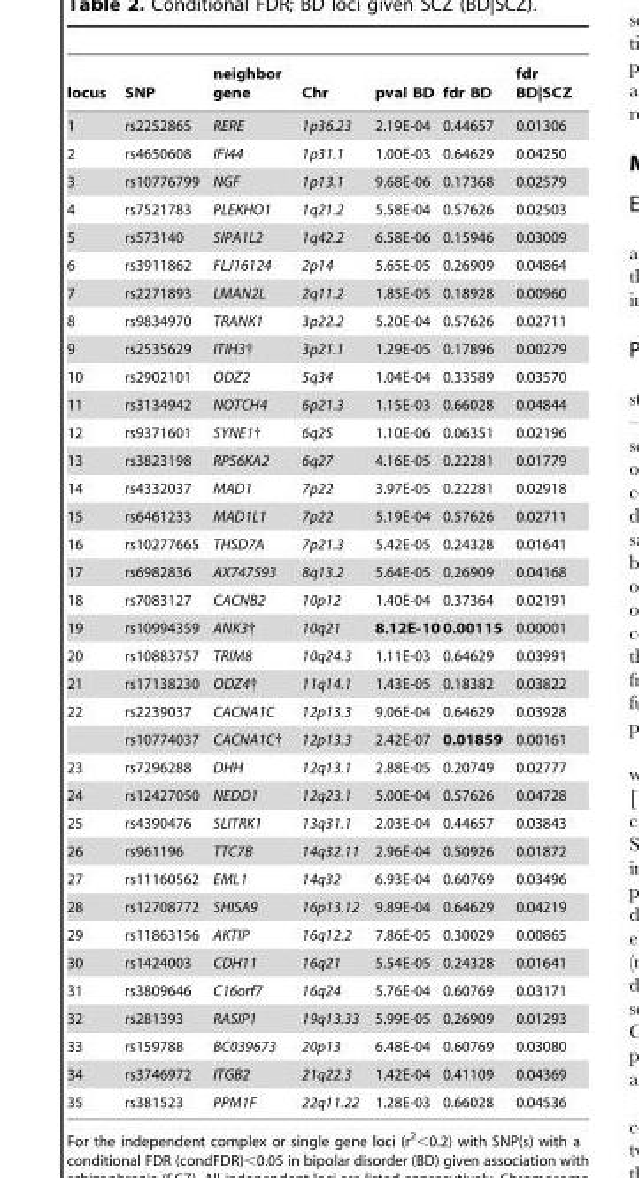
<table><thead><tr><td>locus</td><td>SNP</td><td>neighbor gene</td><td>Chr</td><td>pval BD</td><td>fdr BD</td><td>fdr BD|SCZ</td></tr></thead><tbody><tr><td>1</td><td>rs2252865</td><td>RERE</td><td>1p36.23</td><td>2.19E-04</td><td>0.44657</td><td>0.01306</td></tr><tr><td>2</td><td>rs4650608</td><td>IFI44</td><td>1p31.1</td><td>1.00E-03</td><td>0.64629</td><td>0.04250</td></tr><tr><td>3</td><td>rs10776799</td><td>NGF</td><td>1p13.1</td><td>9.68E-06</td><td>0.17368</td><td>0.02579</td></tr><tr><td>4</td><td>rs7521783</td><td>PLEKHO1</td><td>1q21.2</td><td>5.58E-04</td><td>0.57626</td><td>0.02503</td></tr><tr><td>5</td><td>rs573140</td><td>SIPA1L2</td><td>1q42.2</td><td>6.58E-06</td><td>0.15946</td><td>0.03009</td></tr><tr><td>6</td><td>rs3911862</td><td>FLJ16124</td><td>2p14</td><td>5.65E-05</td><td>0.26909</td><td>0.04864</td></tr><tr><td>7</td><td>rs2271893</td><td>LMAN2L</td><td>2q11.2</td><td>1.85E-05</td><td>0.18928</td><td>0.00960</td></tr><tr><td>8</td><td>rs9834970</td><td>TRANK1</td><td>3p22.2</td><td>5.20E-04</td><td>0.57626</td><td>0.02711</td></tr><tr><td>9</td><td>rs2535629</td><td>ITIH3†</td><td>3p21.1</td><td>1.29E-05</td><td>0.17896</td><td>0.00279</td></tr><tr><td>10</td><td>rs2902101</td><td>ODZ2</td><td>5q34</td><td>1.04E-04</td><td>0.33589</td><td>0.03570</td></tr><tr><td>11</td><td>rs3134942</td><td>NOTCH4</td><td>6p21.3</td><td>1.15E-03</td><td>0.66028</td><td>0.04844</td></tr><tr><td>12</td><td>rs9371601</td><td>SYNE1†</td><td>6q25</td><td>1.10E-06</td><td>0.06351</td><td>0.02196</td></tr><tr><td>13</td><td>rs3823198</td><td>RPS6KA2</td><td>6q27</td><td>4.16E-05</td><td>0.22281</td><td>0.01779</td></tr><tr><td>14</td><td>rs4332037</td><td>MAD1</td><td>7p22</td><td>3.97E-05</td><td>0.22281</td><td>0.02918</td></tr><tr><td>15</td><td>rs6461233</td><td>MAD1L1</td><td>7p22</td><td>5.19E-04</td><td>0.57626</td><td>0.02711</td></tr><tr><td>16</td><td>rs10277665</td><td>THSD7A</td><td>7p21.3</td><td>5.42E-05</td><td>0.24328</td><td>0.01641</td></tr><tr><td>17</td><td>rs6982836</td><td>AX747593</td><td>8q13.2</td><td>5.64E-05</td><td>0.26909</td><td>0.04168</td></tr><tr><td>18</td><td>rs7083127</td><td>CACNB2</td><td>10p12</td><td>1.40E-04</td><td>0.37364</td><td>0.02191</td></tr><tr><td>19</td><td>rs10994359</td><td>ANK3†</td><td>10q21</td><td>8.12E-10</td><td>0.00115</td><td>0.00001</td></tr><tr><td>20</td><td>rs10883757</td><td>TRIM8</td><td>10q24.3</td><td>1.11E-03</td><td>0.64629</td><td>0.03991</td></tr><tr><td>21</td><td>rs17138230</td><td>ODZ4†</td><td>11q14.1</td><td>1.43E-05</td><td>0.18382</td><td>0.03822</td></tr><tr><td rowspan="2">22</td><td>rs2239037</td><td>CACNA1C</td><td>12p13.3</td><td>9.06E-04</td><td>0.64629</td><td>0.03928</td></tr><tr><td>rs10774037</td><td>CACNA1C†</td><td>12p13.3</td><td>2.42E-07</td><td>0.01859</td><td>0.00161</td></tr><tr><td>23</td><td>rs7296288</td><td>DHH</td><td>12q13.1</td><td>2.88E-05</td><td>0.20749</td><td>0.02777</td></tr><tr><td>24</td><td>rs12427050</td><td>NEDD1</td><td>12q23.1</td><td>5.00E-04</td><td>0.57626</td><td>0.04728</td></tr><tr><td>25</td><td>rs4390476</td><td>SLITRK1</td><td>13q31.1</td><td>2.03E-04</td><td>0.44657</td><td>0.03843</td></tr><tr><td>26</td><td>rs961196</td><td>TTC7B</td><td>14q32.11</td><td>2.96E-04</td><td>0.50926</td><td>0.01872</td></tr><tr><td>27</td><td>rs11160562</td><td>EML1</td><td>14q32</td><td>6.93E-04</td><td>0.60769</td><td>0.03496</td></tr><tr><td>28</td><td>rs12708772</td><td>SHISA9</td><td>16p13.12</td><td>9.89E-04</td><td>0.64629</td><td>0.04219</td></tr><tr><td>29</td><td>rs11863156</td><td>AKTIP</td><td>16q12.2</td><td>7.86E-05</td><td>0.30029</td><td>0.00865</td></tr><tr><td>30</td><td>rs1424003</td><td>CDH11</td><td>16q21</td><td>5.54E-05</td><td>0.24328</td><td>0.01641</td></tr><tr><td>31</td><td>rs3809646</td><td>C16orf7</td><td>16q24</td><td>5.76E-04</td><td>0.60769</td><td>0.03171</td></tr><tr><td>32</td><td>rs281393</td><td>RASIP1</td><td>19q13.33</td><td>5.99E-05</td><td>0.26909</td><td>0.01293</td></tr><tr><td>33</td><td>rs159788</td><td>BC039673</td><td>20p13</td><td>6.48E-04</td><td>0.60769</td><td>0.03080</td></tr><tr><td>34</td><td>rs3746972</td><td>ITGB2</td><td>21q22.3</td><td>1.42E-04</td><td>0.41109</td><td>0.04369</td></tr><tr><td>35</td><td>rs381523</td><td>PPM1F</td><td>22q11.22</td><td>1.28E-03</td><td>0.66028</td><td>0.04536</td></tr></tbody></table>